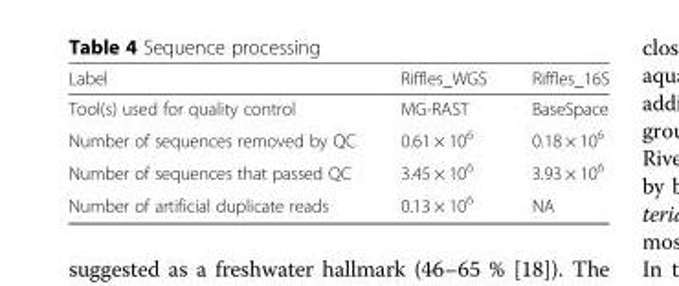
<table><thead><tr><td>Label</td><td>Riffles_WGS</td><td>Riffles_16S</td></tr></thead><tbody><tr><td>Tool(s) used for quality control</td><td>MG-RAST</td><td>BaseSpace</td></tr><tr><td>Number of sequences removed by QC</td><td>0.61 × 10<sup>6</sup></td><td>0.18 × 10<sup>6</sup></td></tr><tr><td>Number of sequences that passed QC</td><td>3.45 × 10<sup>6</sup></td><td>3.93 × 10<sup>6</sup></td></tr><tr><td>Number of artificial duplicate reads</td><td>0.13 × 10<sup>6</sup></td><td>NA</td></tr></tbody></table>